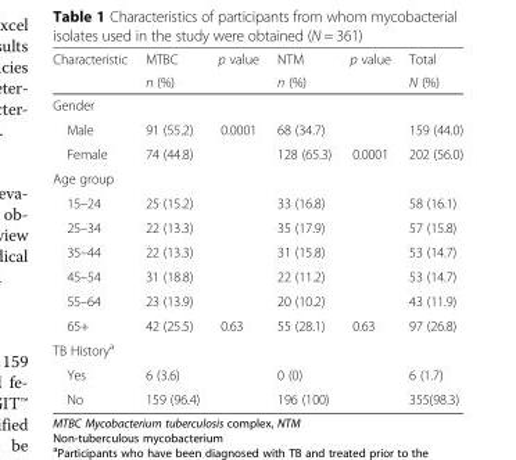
<table><thead><tr><td rowspan="2">Characteristic</td><td rowspan="2">MTBC n (%)</td><td rowspan="2">p value</td><td rowspan="2">NTM n (%)</td><td rowspan="2">p value</td><td rowspan="2">Total N (%)</td></tr><tr></tr></thead><tbody><tr><td colspan="6">Gender</td></tr><tr><td>Male</td><td>91 (55.2)</td><td>0.0001</td><td>68 (34.7)</td><td></td><td>159 (44.0)</td></tr><tr><td>Female</td><td>74 (44.8)</td><td></td><td>128 (65.3)</td><td>0.0001</td><td>202 (56.0)</td></tr><tr><td colspan="6">Age group</td></tr><tr><td>15–24</td><td>25 (15.2)</td><td></td><td>33 (16.8)</td><td></td><td>58 (16.1)</td></tr><tr><td>25–34</td><td>22 (13.3)</td><td></td><td>35 (17.9)</td><td></td><td>57 (15.8)</td></tr><tr><td>35–44</td><td>22 (13.3)</td><td></td><td>31 (15.8)</td><td></td><td>53 (14.7)</td></tr><tr><td>45–54</td><td>31 (18.8)</td><td></td><td>22 (11.2)</td><td></td><td>53 (14.7)</td></tr><tr><td>55–64</td><td>23 (13.9)</td><td></td><td>20 (10.2)</td><td></td><td>43 (11.9)</td></tr><tr><td>65+</td><td>42 (25.5)</td><td>0.63</td><td>55 (28.1)</td><td>0.63</td><td>97 (26.8)</td></tr><tr><td colspan="6">TB History<sup>a</sup></td></tr><tr><td>Yes</td><td>6 (3.6)</td><td></td><td>0 (0)</td><td></td><td>6 (1.7)</td></tr><tr><td>No</td><td>159 (96.4)</td><td></td><td>196 (100)</td><td></td><td>355(98.3)</td></tr></tbody></table>